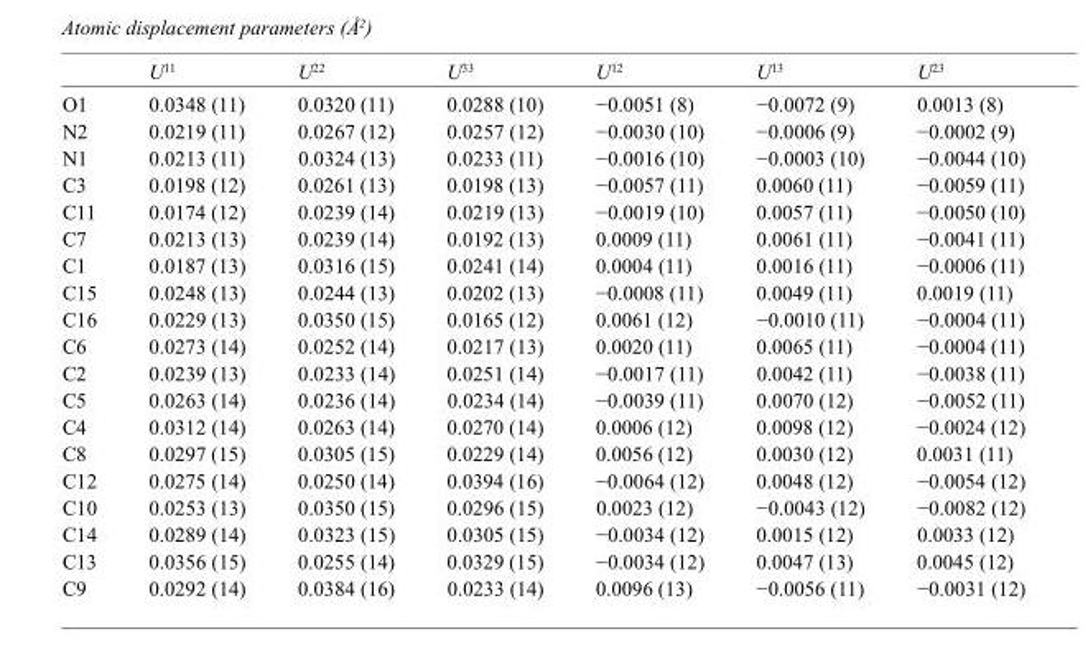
<table><thead><tr><td></td><td>U<sup>11</sup></td><td>U<sup>22</sup></td><td>U<sup>33</sup></td><td>U<sup>12</sup></td><td>U<sup>13</sup></td><td>U<sup>23</sup></td></tr></thead><tbody><tr><td>O1</td><td>0.0348 (11)</td><td>0.0320 (11)</td><td>0.0288 (10)</td><td>−0.0051 (8)</td><td>−0.0072 (9)</td><td>0.0013 (8)</td></tr><tr><td>N2</td><td>0.0219 (11)</td><td>0.0267 (12)</td><td>0.0257 (12)</td><td>−0.0030 (10)</td><td>−0.0006 (9)</td><td>−0.0002 (9)</td></tr><tr><td>N1</td><td>0.0213 (11)</td><td>0.0324 (13)</td><td>0.0233 (11)</td><td>−0.0016 (10)</td><td>−0.0003 (10)</td><td>−0.0044 (10)</td></tr><tr><td>C3</td><td>0.0198 (12)</td><td>0.0261 (13)</td><td>0.0198 (13)</td><td>−0.0057 (11)</td><td>0.0060 (11)</td><td>−0.0059 (11)</td></tr><tr><td>C11</td><td>0.0174 (12)</td><td>0.0239 (14)</td><td>0.0219 (13)</td><td>−0.0019 (10)</td><td>0.0057 (11)</td><td>−0.0050 (10)</td></tr><tr><td>C7</td><td>0.0213 (13)</td><td>0.0239 (14)</td><td>0.0192 (13)</td><td>0.0009 (11)</td><td>0.0061 (11)</td><td>−0.0041 (11)</td></tr><tr><td>C1</td><td>0.0187 (13)</td><td>0.0316 (15)</td><td>0.0241 (14)</td><td>0.0004 (11)</td><td>0.0016 (11)</td><td>−0.0006 (11)</td></tr><tr><td>C15</td><td>0.0248 (13)</td><td>0.0244 (13)</td><td>0.0202 (13)</td><td>−0.0008 (11)</td><td>0.0049 (11)</td><td>0.0019 (11)</td></tr><tr><td>C16</td><td>0.0229 (13)</td><td>0.0350 (15)</td><td>0.0165 (12)</td><td>0.0061 (12)</td><td>−0.0010 (11)</td><td>−0.0004 (11)</td></tr><tr><td>C6</td><td>0.0273 (14)</td><td>0.0252 (14)</td><td>0.0217 (13)</td><td>0.0020 (11)</td><td>0.0065 (11)</td><td>−0.0004 (11)</td></tr><tr><td>C2</td><td>0.0239 (13)</td><td>0.0233 (14)</td><td>0.0251 (14)</td><td>−0.0017 (11)</td><td>0.0042 (11)</td><td>−0.0038 (11)</td></tr><tr><td>C5</td><td>0.0263 (14)</td><td>0.0236 (14)</td><td>0.0234 (14)</td><td>−0.0039 (11)</td><td>0.0070 (12)</td><td>−0.0052 (11)</td></tr><tr><td>C4</td><td>0.0312 (14)</td><td>0.0263 (14)</td><td>0.0270 (14)</td><td>0.0006 (12)</td><td>0.0098 (12)</td><td>−0.0024 (12)</td></tr><tr><td>C8</td><td>0.0297 (15)</td><td>0.0305 (15)</td><td>0.0229 (14)</td><td>0.0056 (12)</td><td>0.0030 (12)</td><td>0.0031 (11)</td></tr><tr><td>C12</td><td>0.0275 (14)</td><td>0.0250 (14)</td><td>0.0394 (16)</td><td>−0.0064 (12)</td><td>0.0048 (12)</td><td>−0.0054 (12)</td></tr><tr><td>C10</td><td>0.0253 (13)</td><td>0.0350 (15)</td><td>0.0296 (15)</td><td>0.0023 (12)</td><td>−0.0043 (12)</td><td>−0.0082 (12)</td></tr><tr><td>C14</td><td>0.0289 (14)</td><td>0.0323 (15)</td><td>0.0305 (15)</td><td>−0.0034 (12)</td><td>0.0015 (12)</td><td>0.0033 (12)</td></tr><tr><td>C13</td><td>0.0356 (15)</td><td>0.0255 (14)</td><td>0.0329 (15)</td><td>−0.0034 (12)</td><td>0.0047 (13)</td><td>0.0045 (12)</td></tr><tr><td>C9</td><td>0.0292 (14)</td><td>0.0384 (16)</td><td>0.0233 (14)</td><td>0.0096 (13)</td><td>−0.0056 (11)</td><td>−0.0031 (12)</td></tr></tbody></table>